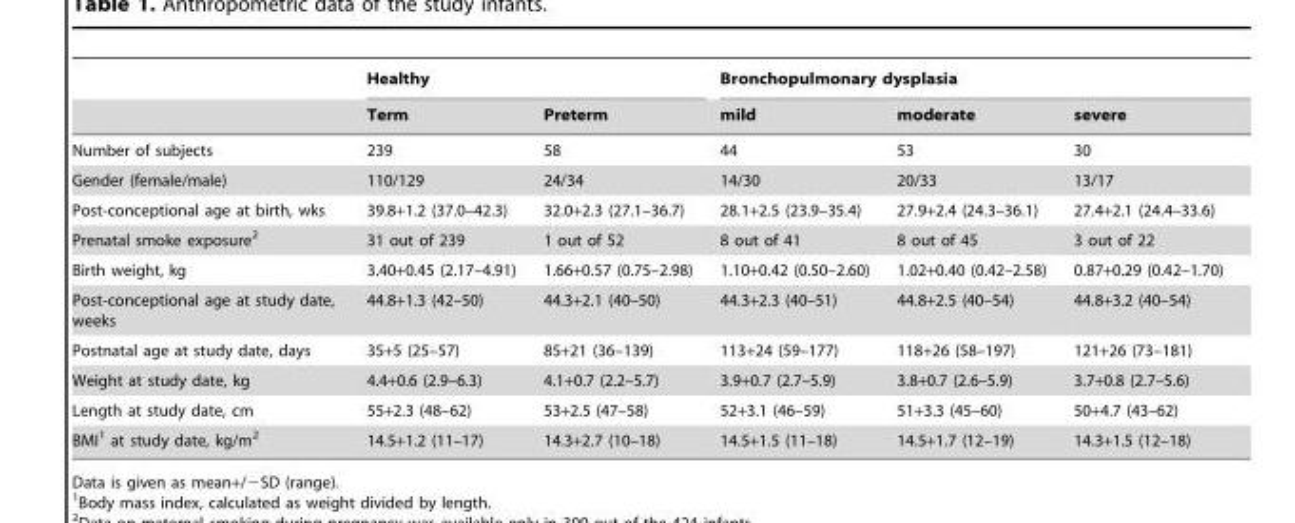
<table><thead><tr><td rowspan="2"></td><td colspan="2">Healthy</td><td colspan="3">Bronchopulmonary dysplasia</td></tr><tr><td>Term</td><td>Preterm</td><td>mild</td><td>moderate</td><td>severe</td></tr></thead><tbody><tr><td>Number of subjects</td><td>239</td><td>58</td><td>44</td><td>53</td><td>30</td></tr><tr><td>Gender (female/male)</td><td>110/129</td><td>24/34</td><td>14/30</td><td>20/33</td><td>13/17</td></tr><tr><td>Post-conceptional age at birth, wks</td><td>39.8+1.2 (37.0–42.3)</td><td>32.0+2.3 (27.1–36.7)</td><td>28.1+2.5 (23.9–35.4)</td><td>27.9+2.4 (24.3–36.1)</td><td>27.4+2.1 (24.4–33.6)</td></tr><tr><td>Prenatal smoke exposure<sup>2</sup></td><td>31 out of 239</td><td>1 out of 52</td><td>8 out of 41</td><td>8 out of 45</td><td>3 out of 22</td></tr><tr><td>Birth weight, kg</td><td>3.40+0.45 (2.17–4.91)</td><td>1.66+0.57 (0.75–2.98)</td><td>1.10+0.42 (0.50–2.60)</td><td>1.02+0.40 (0.42–2.58)</td><td>0.87+0.29 (0.42–1.70)</td></tr><tr><td>Post-conceptional age at study date, weeks</td><td>44.8+1.3 (42–50)</td><td>44.3+2.1 (40–50)</td><td>44.3+2.3 (40–51)</td><td>44.8+2.5 (40–54)</td><td>44.8+3.2 (40–54)</td></tr><tr><td>Postnatal age at study date, days</td><td>35+5 (25–57)</td><td>85+21 (36–139)</td><td>113+24 (59–177)</td><td>118+26 (58–197)</td><td>121+26 (73–181)</td></tr><tr><td>Weight at study date, kg</td><td>4.4+0.6 (2.9–6.3)</td><td>4.1+0.7 (2.2–5.7)</td><td>3.9+0.7 (2.7–5.9)</td><td>3.8+0.7 (2.6–5.9)</td><td>3.7+0.8 (2.7–5.6)</td></tr><tr><td>Length at study date, cm</td><td>55+2.3 (48–62)</td><td>53+2.5 (47–58)</td><td>52+3.1 (46–59)</td><td>51+3.3 (45–60)</td><td>50+4.7 (43–62)</td></tr><tr><td>BMI<sup>1</sup> at study date, kg/m<sup>2</sup></td><td>14.5+1.2 (11–17)</td><td>14.3+2.7 (10–18)</td><td>14.5+1.5 (11–18)</td><td>14.5+1.7 (12–19)</td><td>14.3+1.5 (12–18)</td></tr></tbody></table>